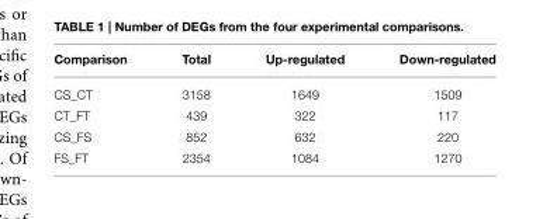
<table><thead><tr><td>Comparison</td><td>Total</td><td>Up-regulated</td><td>Down-regulated</td></tr></thead><tbody><tr><td>CS_CT</td><td>3158</td><td>1649</td><td>1509</td></tr><tr><td>CT_FT</td><td>439</td><td>322</td><td>117</td></tr><tr><td>CS_FS</td><td>852</td><td>632</td><td>220</td></tr><tr><td>FS_FT</td><td>2354</td><td>1084</td><td>1270</td></tr></tbody></table>